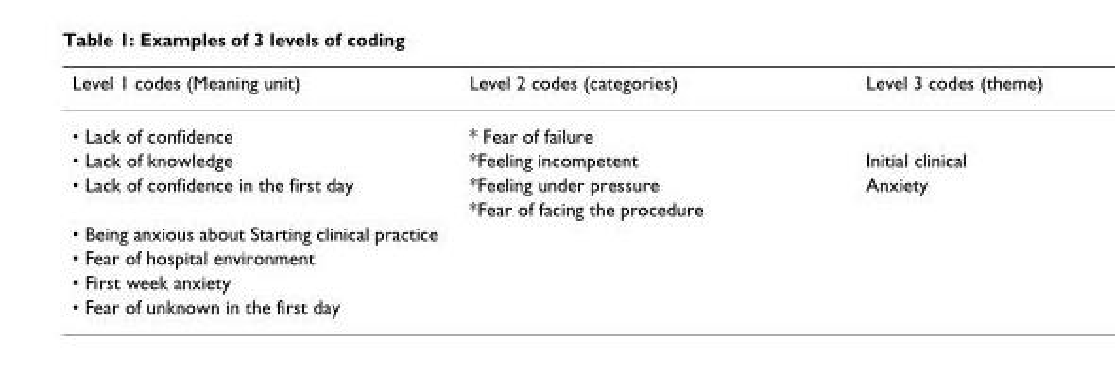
<table><thead><tr><td>Level 1 codes (Meaning unit)</td><td>Level 2 codes (categories)</td><td>Level 3 codes (theme)</td></tr></thead><tbody><tr><td>• Lack of confidence</td><td>* Fear of failure</td><td></td></tr><tr><td>• Lack of knowledge</td><td>*Feeling incompetent</td><td>Initial clinical</td></tr><tr><td rowspan="2">• Lack of confidence in the first day</td><td>*Feeling under pressure</td><td>Anxiety</td></tr><tr><td>*Fear of facing the procedure</td><td></td></tr><tr><td colspan="3">• Being anxious about Starting clinical practice</td></tr><tr><td colspan="3">• Fear of hospital environment</td></tr><tr><td colspan="3">• First week anxiety</td></tr><tr><td>• Fear of unknown in the first day</td><td></td><td></td></tr></tbody></table>